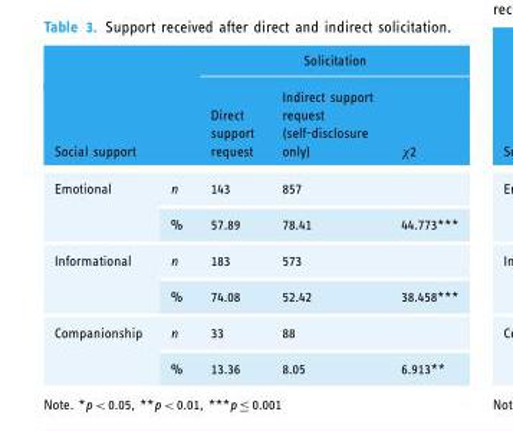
<table><thead><tr><td rowspan="2">Social support</td><td rowspan="2"></td><td colspan="3">Solicitation</td></tr><tr><td>Direct support request</td><td>Indirect support request (self-disclosure only)</td><td>χ2</td></tr></thead><tbody><tr><td rowspan="2">Emotional</td><td>n</td><td>143</td><td>857</td><td></td></tr><tr><td>%</td><td>57.89</td><td>78.41</td><td>44.773***</td></tr><tr><td rowspan="2">Informational</td><td>n</td><td>183</td><td>573</td><td></td></tr><tr><td>%</td><td>74.08</td><td>52.42</td><td>38.458***</td></tr><tr><td rowspan="2">Companionship</td><td>n</td><td>33</td><td>88</td><td></td></tr><tr><td>%</td><td>13.36</td><td>8.05</td><td>6.913**</td></tr></tbody></table>